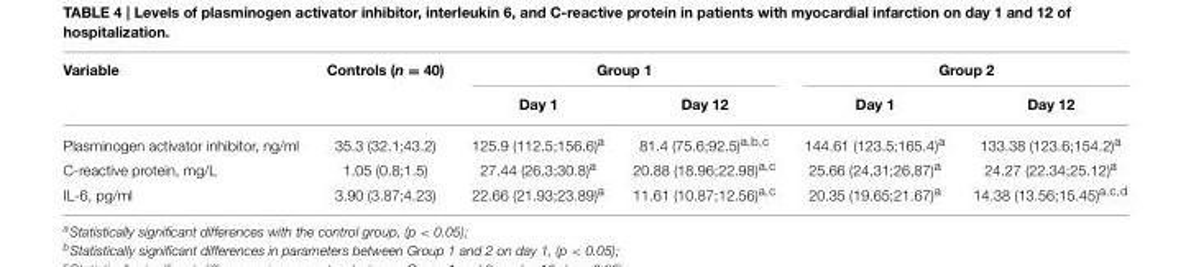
<table><thead><tr><td rowspan="2">Variable</td><td rowspan="2">Controls (n = 40)</td><td colspan="2">Group 1</td><td colspan="2">Group 2</td></tr><tr><td>Day 1</td><td>Day 12</td><td>Day 1</td><td>Day 12</td></tr></thead><tbody><tr><td>Plasminogen activator inhibitor, ng/ml</td><td>35.3 (32.1;43.2)</td><td>125.9 (112.5;156.6)<sup>a</sup></td><td>81.4 (75.6;92.5)<sup>a,b,c</sup></td><td>144.61 (123.5;165.4)<sup>a</sup></td><td>133.38 (123.6;154.2)<sup>a</sup></td></tr><tr><td>C-reactive protein, mg/L</td><td>1.05 (0.8;1.5)</td><td>27.44 (26.3;30.8)<sup>a</sup></td><td>20.88 (18.96;22.98)<sup>a,c</sup></td><td>25.66 (24,31;26,87)<sup>a</sup></td><td>24.27 (22.34;25.12)<sup>a</sup></td></tr><tr><td>IL-6, pg/ml</td><td>3.90 (3.87;4.23)</td><td>22.66 (21.93;23.89)<sup>a</sup></td><td>11.61 (10.87;12.56)<sup>a,c</sup></td><td>20.35 (19.65;21.67)<sup>a</sup></td><td>14.38 (13.56;15.45)<sup>a,c,d</sup></td></tr></tbody></table>